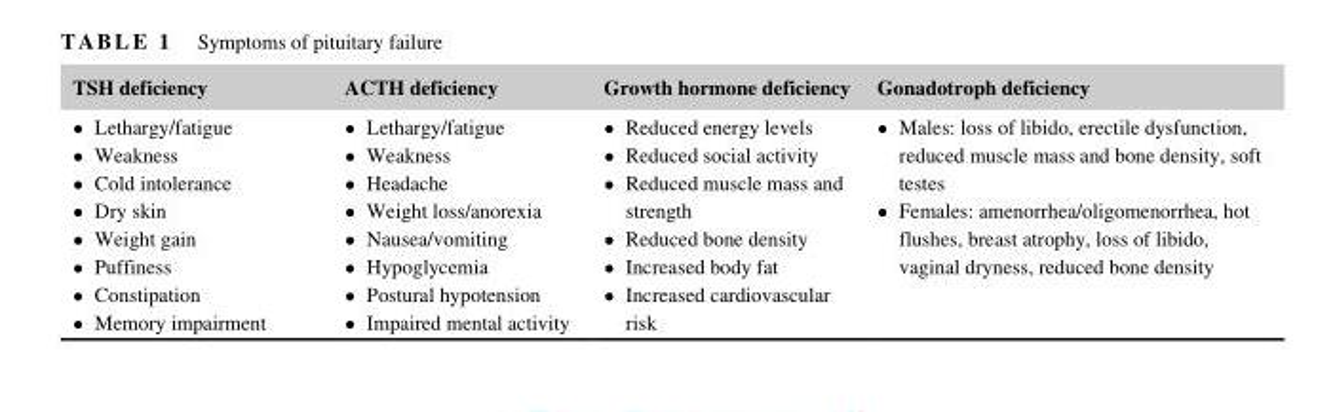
<table><thead><tr><td>TSH deficiency</td><td>ACTH deficiency</td><td>Growth hormone deficiency</td><td>Gonadotroph deficiency</td></tr></thead><tbody><tr><td>• Lethargy/fatigue • Weakness • Cold intolerance • Dry skin • Weight gain • Puffiness • Constipation • Memory impairment</td><td>• Lethargy/fatigue • Weakness • Headache • Weight loss/anorexia • Nausea/vomiting • Hypoglycemia • Postural hypotension • Impaired mental activity</td><td>• Reduced energy levels • Reduced social activity • Reduced muscle mass and strength • Reduced bone density • Increased body fat • Increased cardiovascular risk</td><td>• Males: loss of libido, erectile dysfunction, reduced muscle mass and bone density, soft testes • Females: amenorrhea/oligomenorrhea, hot flushes, breast atrophy, loss of libido, vaginal dryness, reduced bone density</td></tr></tbody></table>